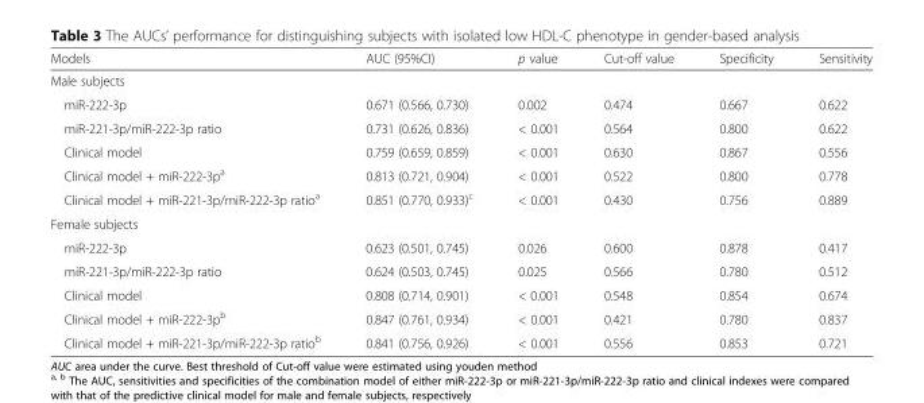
<table><thead><tr><td>Models</td><td>AUC (95%CI)</td><td>p value</td><td>Cut-off value</td><td>Specificity</td><td>Sensitivity</td></tr></thead><tbody><tr><td colspan="6">Male subjects</td></tr><tr><td>miR-222-3p</td><td>0.671 (0.566, 0.730)</td><td>0.002</td><td>0.474</td><td>0.667</td><td>0.622</td></tr><tr><td>miR-221-3p/miR-222-3p ratio</td><td>0.731 (0.626, 0.836)</td><td>&lt; 0.001</td><td>0.564</td><td>0.800</td><td>0.622</td></tr><tr><td>Clinical model</td><td>0.759 (0.659, 0.859)</td><td>&lt; 0.001</td><td>0.630</td><td>0.867</td><td>0.556</td></tr><tr><td>Clinical model + miR-222-3p<sup>a</sup></td><td>0.813 (0.721, 0.904)</td><td>&lt; 0.001</td><td>0.522</td><td>0.800</td><td>0.778</td></tr><tr><td>Clinical model + miR-221-3p/miR-222-3p ratio<sup>a</sup></td><td>0.851 (0.770, 0.933)<sup>c</sup></td><td>&lt; 0.001</td><td>0.430</td><td>0.756</td><td>0.889</td></tr><tr><td colspan="6">Female subjects</td></tr><tr><td>miR-222-3p</td><td>0.623 (0.501, 0.745)</td><td>0.026</td><td>0.600</td><td>0.878</td><td>0.417</td></tr><tr><td>miR-221-3p/miR-222-3p ratio</td><td>0.624 (0.503, 0.745)</td><td>0.025</td><td>0.566</td><td>0.780</td><td>0.512</td></tr><tr><td>Clinical model</td><td>0.808 (0.714, 0.901)</td><td>&lt; 0.001</td><td>0.548</td><td>0.854</td><td>0.674</td></tr><tr><td>Clinical model + miR-222-3p<sup>b</sup></td><td>0.847 (0.761, 0.934)</td><td>&lt; 0.001</td><td>0.421</td><td>0.780</td><td>0.837</td></tr><tr><td>Clinical model + miR-221-3p/miR-222-3p ratio<sup>b</sup></td><td>0.841 (0.756, 0.926)</td><td>&lt; 0.001</td><td>0.556</td><td>0.853</td><td>0.721</td></tr></tbody></table>